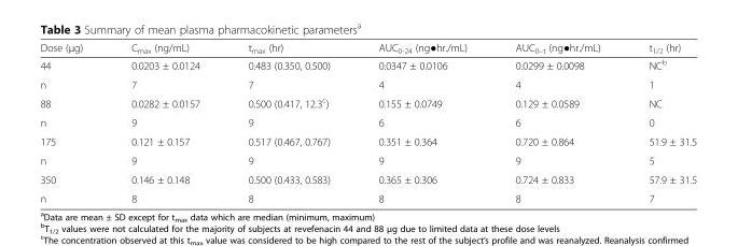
<table><thead><tr><td>Dose (μg)</td><td>C<sub>max</sub> (ng/mL)</td><td>t<sub>max</sub> (hr)</td><td>AUC<sub>0-24</sub> (ng●hr./mL)</td><td>AUC<sub>0–t</sub> (ng●hr./mL)</td><td>t<sub>1/2</sub> (hr)</td></tr></thead><tbody><tr><td>44</td><td>0.0203 ± 0.0124</td><td>0.483 (0.350, 0.500)</td><td>0.0347 ± 0.0106</td><td>0.0299 ± 0.0098</td><td>NC<sup>b</sup></td></tr><tr><td>n</td><td>7</td><td>7</td><td>4</td><td>4</td><td>1</td></tr><tr><td>88</td><td>0.0282 ± 0.0157</td><td>0.500 (0.417, 12.3<sup>c</sup>)</td><td>0.155 ± 0.0749</td><td>0.129 ± 0.0589</td><td>NC</td></tr><tr><td>n</td><td>9</td><td>9</td><td>6</td><td>6</td><td>0</td></tr><tr><td>175</td><td>0.121 ± 0.157</td><td>0.517 (0.467, 0.767)</td><td>0.351 ± 0.364</td><td>0.720 ± 0.864</td><td>51.9 ± 31.5</td></tr><tr><td>n</td><td>9</td><td>9</td><td>9</td><td>9</td><td>5</td></tr><tr><td>350</td><td>0.146 ± 0.148</td><td>0.500 (0.433, 0.583)</td><td>0.365 ± 0.306</td><td>0.724 ± 0.833</td><td>57.9 ± 31.5</td></tr><tr><td>n</td><td>8</td><td>8</td><td>8</td><td>8</td><td>7</td></tr></tbody></table>